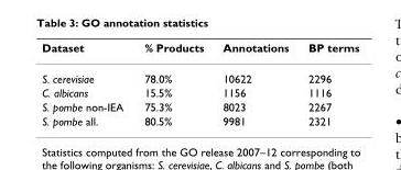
<table><thead><tr><td>Dataset</td><td>% Products</td><td>Annotations</td><td>BP terms</td></tr></thead><tbody><tr><td>S. cerevisiae</td><td>78.0%</td><td>10622</td><td>2296</td></tr><tr><td>C. albicans</td><td>15.5%</td><td>1156</td><td>1116</td></tr><tr><td>S. pombe non-IEA</td><td>75.3%</td><td>8023</td><td>2267</td></tr><tr><td>S. pombe all.</td><td>80.5%</td><td>9981</td><td>2321</td></tr></tbody></table>